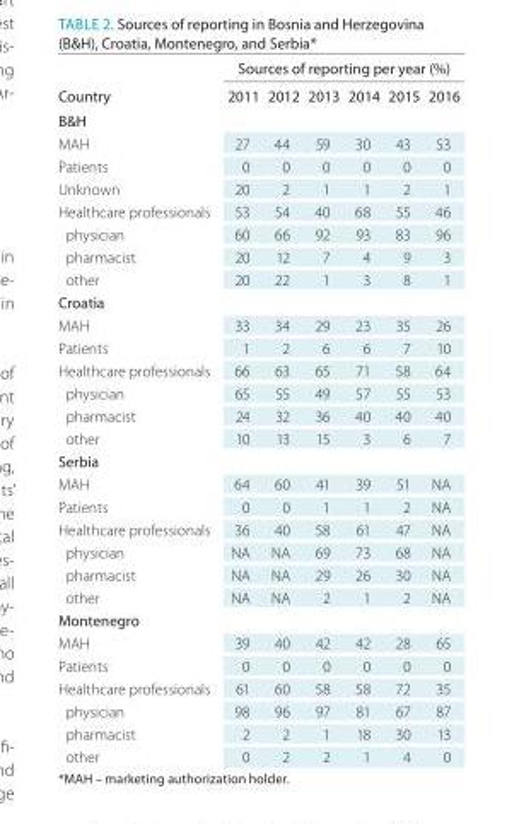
<table><thead><tr><td rowspan="2">Country</td><td colspan="6">Sources of reporting per year (%)</td></tr><tr><td>2011</td><td>2012</td><td>2013</td><td>2014</td><td>2015</td><td>2016</td></tr></thead><tbody><tr><td colspan="7">B&amp;H</td></tr><tr><td>MAH</td><td>27</td><td>44</td><td>59</td><td>30</td><td>43</td><td>53</td></tr><tr><td>Patients</td><td>0</td><td>0</td><td>0</td><td>0</td><td>0</td><td>0</td></tr><tr><td>Unknown</td><td>20</td><td>2</td><td>1</td><td>1</td><td>2</td><td>1</td></tr><tr><td>Healthcare professionals</td><td>53</td><td>54</td><td>40</td><td>68</td><td>55</td><td>46</td></tr><tr><td>physician</td><td>60</td><td>66</td><td>92</td><td>93</td><td>83</td><td>96</td></tr><tr><td>pharmacist</td><td>20</td><td>12</td><td>7</td><td>4</td><td>9</td><td>3</td></tr><tr><td>other</td><td>20</td><td>22</td><td>1</td><td>3</td><td>8</td><td>1</td></tr><tr><td colspan="7">Croatia</td></tr><tr><td>MAH</td><td>33</td><td>34</td><td>29</td><td>23</td><td>35</td><td>26</td></tr><tr><td>Patients</td><td>1</td><td>2</td><td>6</td><td>6</td><td>7</td><td>10</td></tr><tr><td>Healthcare professionals</td><td>66</td><td>63</td><td>65</td><td>71</td><td>58</td><td>64</td></tr><tr><td>physician</td><td>65</td><td>55</td><td>49</td><td>57</td><td>55</td><td>53</td></tr><tr><td>pharmacist</td><td>24</td><td>32</td><td>36</td><td>40</td><td>40</td><td>40</td></tr><tr><td>other</td><td>10</td><td>13</td><td>15</td><td>3</td><td>6</td><td>7</td></tr><tr><td colspan="7">Serbia</td></tr><tr><td>MAH</td><td>64</td><td>60</td><td>41</td><td>39</td><td>51</td><td>NA</td></tr><tr><td>Patients</td><td>0</td><td>0</td><td>1</td><td>1</td><td>2</td><td>NA</td></tr><tr><td>Healthcare professionals</td><td>36</td><td>40</td><td>58</td><td>61</td><td>47</td><td>NA</td></tr><tr><td>physician</td><td>NA</td><td>NA</td><td>69</td><td>73</td><td>68</td><td>NA</td></tr><tr><td>pharmacist</td><td>NA</td><td>NA</td><td>29</td><td>26</td><td>30</td><td>NA</td></tr><tr><td>other</td><td>NA</td><td>NA</td><td>2</td><td>1</td><td>2</td><td>NA</td></tr><tr><td colspan="7">Montenegro</td></tr><tr><td>MAH</td><td>39</td><td>40</td><td>42</td><td>42</td><td>28</td><td>65</td></tr><tr><td>Patients</td><td>0</td><td>0</td><td>0</td><td>0</td><td>0</td><td>0</td></tr><tr><td>Healthcare professionals</td><td>61</td><td>60</td><td>58</td><td>58</td><td>72</td><td>35</td></tr><tr><td>physician</td><td>98</td><td>96</td><td>97</td><td>81</td><td>67</td><td>87</td></tr><tr><td>pharmacist</td><td>2</td><td>2</td><td>1</td><td>18</td><td>30</td><td>13</td></tr><tr><td>other</td><td>0</td><td>2</td><td>2</td><td>1</td><td>4</td><td>0</td></tr></tbody></table>